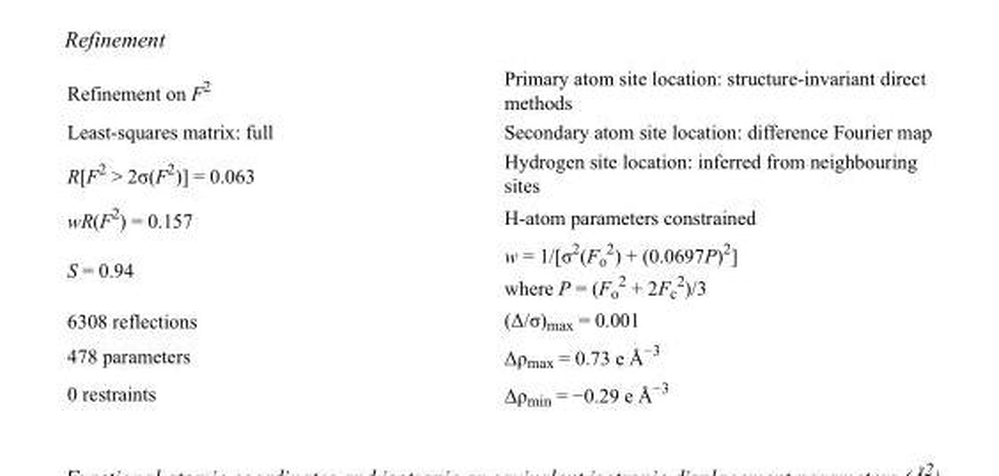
<table><tbody><tr><td>Refinement on F<sup>2</sup></td><td>Primary atom site location: structure-invariant direct methods</td></tr><tr><td>Least-squares matrix: full</td><td>Secondary atom site location: difference Fourier map</td></tr><tr><td>R[F<sup>2</sup> &gt; 2σ(F<sup>2</sup>)] = 0.063</td><td>Hydrogen site location: inferred from neighbouring sites</td></tr><tr><td>wR(F<sup>2</sup>) = 0.157</td><td>H-atom parameters constrained</td></tr><tr><td>S = 0.94</td><td>w = 1/[σ<sup>2</sup>(F<sub>o</sub> <sup>2</sup>) + (0.0697P)<sup>2</sup>] where P = (F<sub>o</sub> <sup>2</sup> + 2F<sub>c</sub> <sup>2</sup>)/3</td></tr><tr><td>6308 reflections</td><td>(Δ/σ)<sub>max</sub> = 0.001</td></tr><tr><td>478 parameters</td><td>Δρ<sub>max</sub> = 0.73 e Å<sup>−3</sup></td></tr><tr><td>0 restraints</td><td>Δρ<sub>min</sub> = −0.29 e Å<sup>−3</sup></td></tr></tbody></table>